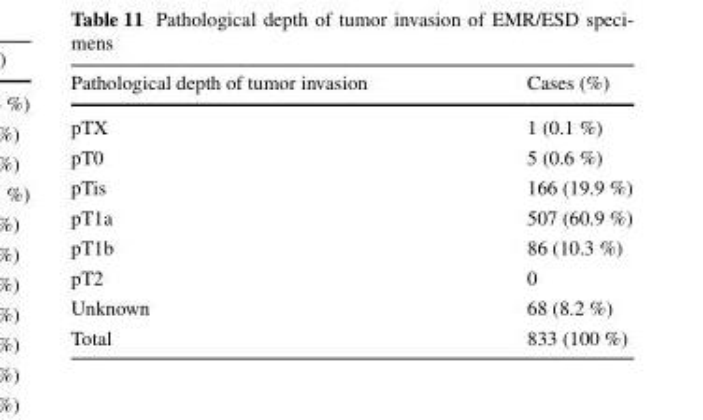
<table><thead><tr><td>Pathological depth of tumor invasion</td><td>Cases (%)</td></tr></thead><tbody><tr><td>pTX</td><td>1 (0.1 %)</td></tr><tr><td>pT0</td><td>5 (0.6 %)</td></tr><tr><td>pTis</td><td>166 (19.9 %)</td></tr><tr><td>pT1a</td><td>507 (60.9 %)</td></tr><tr><td>pT1b</td><td>86 (10.3 %)</td></tr><tr><td>pT2</td><td>0</td></tr><tr><td>Unknown</td><td>68 (8.2 %)</td></tr><tr><td>Total</td><td>833 (100 %)</td></tr></tbody></table>